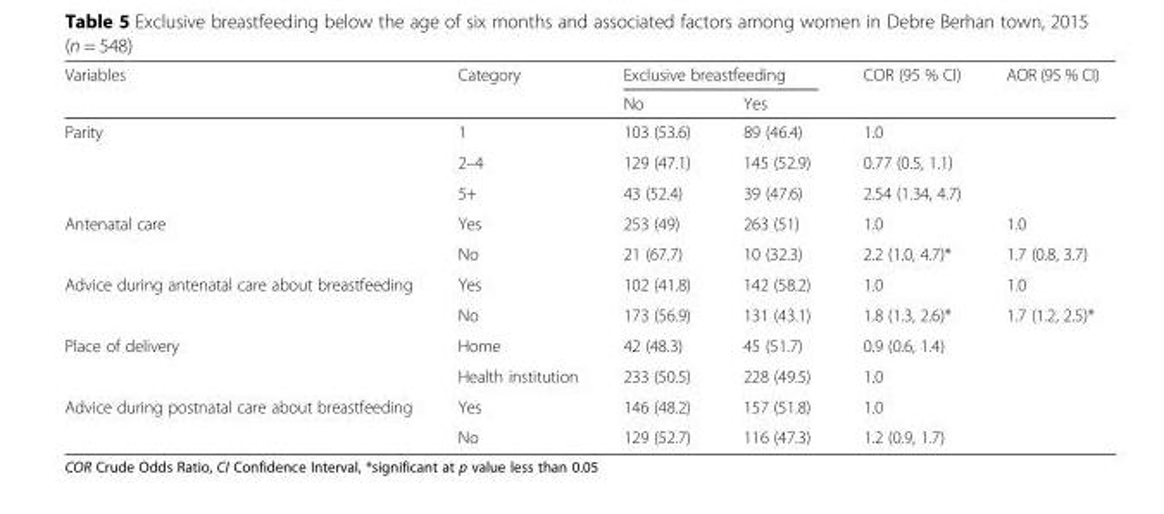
<table><thead><tr><td rowspan="2">Variables</td><td rowspan="2">Category</td><td colspan="2">Exclusive breastfeeding</td><td rowspan="2">COR (95 % CI)</td><td rowspan="2">AOR (95 % CI)</td></tr><tr><td>No</td><td>Yes</td></tr></thead><tbody><tr><td rowspan="3">Parity</td><td>1</td><td>103 (53.6)</td><td>89 (46.4)</td><td>1.0</td><td></td></tr><tr><td>2–4</td><td>129 (47.1)</td><td>145 (52.9)</td><td>0.77 (0.5, 1.1)</td><td></td></tr><tr><td>5+</td><td>43 (52.4)</td><td>39 (47.6)</td><td>2.54 (1.34, 4.7)</td><td></td></tr><tr><td rowspan="2">Antenatal care</td><td>Yes</td><td>253 (49)</td><td>263 (51)</td><td>1.0</td><td>1.0</td></tr><tr><td>No</td><td>21 (67.7)</td><td>10 (32.3)</td><td>2.2 (1.0, 4.7)*</td><td>1.7 (0.8, 3.7)</td></tr><tr><td rowspan="2">Advice during antenatal care about breastfeeding</td><td>Yes</td><td>102 (41.8)</td><td>142 (58.2)</td><td>1.0</td><td>1.0</td></tr><tr><td>No</td><td>173 (56.9)</td><td>131 (43.1)</td><td>1.8 (1.3, 2.6)*</td><td>1.7 (1.2, 2.5)*</td></tr><tr><td rowspan="2">Place of delivery</td><td>Home</td><td>42 (48.3)</td><td>45 (51.7)</td><td>0.9 (0.6, 1.4)</td><td></td></tr><tr><td>Health institution</td><td>233 (50.5)</td><td>228 (49.5)</td><td>1.0</td><td></td></tr><tr><td rowspan="2">Advice during postnatal care about breastfeeding</td><td>Yes</td><td>146 (48.2)</td><td>157 (51.8)</td><td>1.0</td><td></td></tr><tr><td>No</td><td>129 (52.7)</td><td>116 (47.3)</td><td>1.2 (0.9, 1.7)</td><td></td></tr></tbody></table>